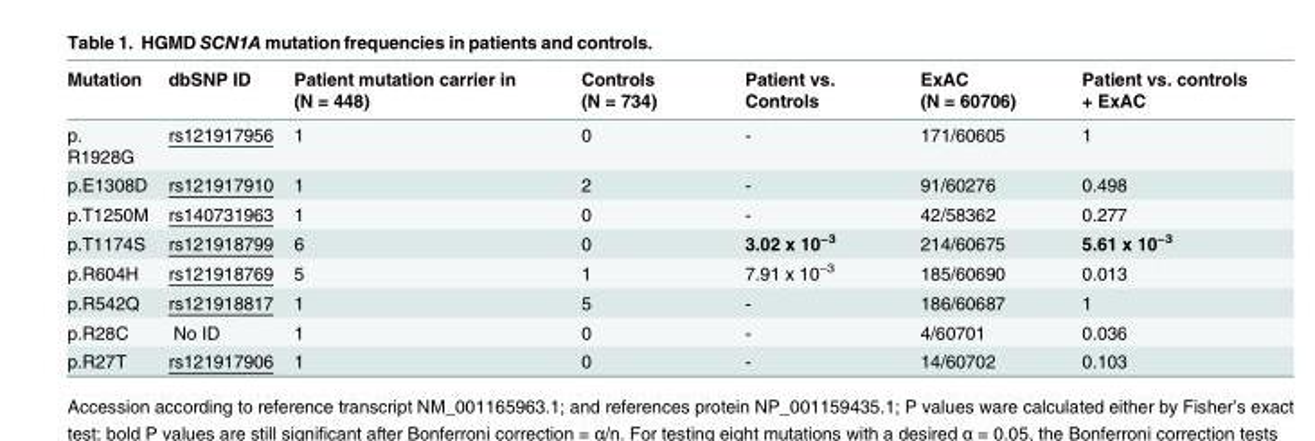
<table><thead><tr><td>Mutation</td><td>dbSNP ID</td><td>Patient mutation carrier in (N = 448)</td><td>Controls (N = 734)</td><td>Patient vs. Controls</td><td>ExAC (N = 60706)</td><td>Patient vs. controls + ExAC</td></tr></thead><tbody><tr><td>p. R1928G</td><td>rs121917956</td><td>1</td><td>0</td><td>-</td><td>171/60605</td><td>1</td></tr><tr><td>p.E1308D</td><td>rs121917910</td><td>1</td><td>2</td><td>-</td><td>91/60276</td><td>0.498</td></tr><tr><td>p.T1250M</td><td>rs140731963</td><td>1</td><td>0</td><td>-</td><td>42/58362</td><td>0.277</td></tr><tr><td>p.T1174S</td><td>rs121918799</td><td>6</td><td>0</td><td>3.02 x 10<sup>−3</sup></td><td>214/60675</td><td>5.61 x 10<sup>−3</sup></td></tr><tr><td>p.R604H</td><td>rs121918769</td><td>5</td><td>1</td><td>7.91 x 10<sup>−3</sup></td><td>185/60690</td><td>0.013</td></tr><tr><td>p.R542Q</td><td>rs121918817</td><td>1</td><td>5</td><td>-</td><td>186/60687</td><td>1</td></tr><tr><td>p.R28C</td><td>No ID</td><td>1</td><td>0</td><td>-</td><td>4/60701</td><td>0.036</td></tr><tr><td>p.R27T</td><td>rs121917906</td><td>1</td><td>0</td><td>-</td><td>14/60702</td><td>0.103</td></tr></tbody></table>